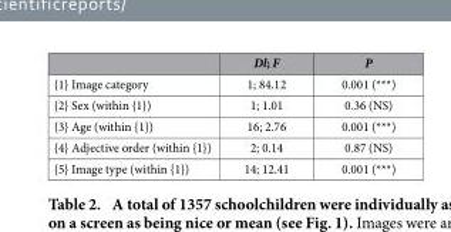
<table><thead><tr><td></td><td>Dl; F</td><td>P</td></tr></thead><tbody><tr><td>{1} Image category</td><td>1; 84.12</td><td>0.001 (***)</td></tr><tr><td>{2} Sex (within {1})</td><td>1; 1.01</td><td>0.36 (NS)</td></tr><tr><td>{3} Age (within {1})</td><td>16; 2.76</td><td>0.001 (***)</td></tr><tr><td>{4} Adjective order (within {1})</td><td>2; 0.14</td><td>0.87 (NS)</td></tr><tr><td>{5} Image type (within {1})</td><td>14; 12.41</td><td>0.001 (***)</td></tr></tbody></table>